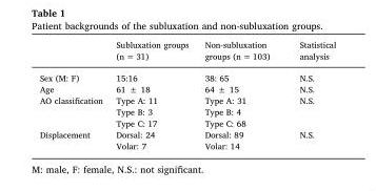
<table><thead><tr><td></td><td>Subluxation groups (n = 31)</td><td>Non-subluxation groups (n = 103)</td><td>Statistical analysis</td></tr></thead><tbody><tr><td>Sex (M: F)</td><td>15:16</td><td>38: 65</td><td>N.S.</td></tr><tr><td>Age</td><td>61 ± 18</td><td>64 ± 15</td><td>N.S.</td></tr><tr><td rowspan="3">AO classification</td><td>Type A: 11</td><td>Type A: 31</td><td rowspan="3">N.S.</td></tr><tr><td>Type B: 3</td><td>Type B: 4</td></tr><tr><td>Type C: 17</td><td>Type C: 68</td></tr><tr><td rowspan="2">Displacement</td><td>Dorsal: 24</td><td>Dorsal: 89</td><td rowspan="2">N.S.</td></tr><tr><td>Volar: 7</td><td>Volar: 14</td></tr></tbody></table>